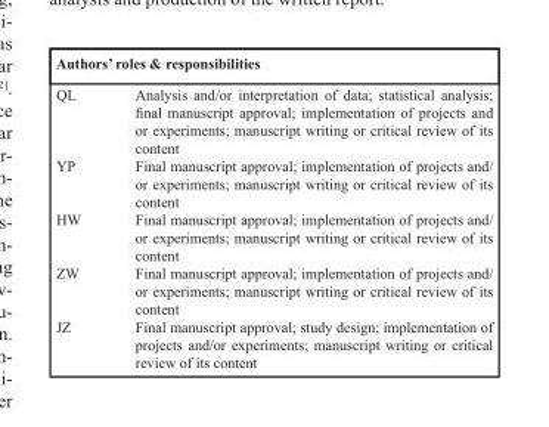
<table><thead><tr><td colspan="2">Authors’ roles &amp; responsibilities</td></tr><tr><td>QL</td><td>Analysis and/or interpretation of data; statistical analysis; final manuscript approval; implementation of projects and or experiments; manuscript writing or critical review of its content</td></tr></thead><tbody><tr><td>YP</td><td>Final manuscript approval; implementation of projects and/ or experiments; manuscript writing or critical review of its content</td></tr><tr><td>HW</td><td>Final manuscript approval; implementation of projects and/ or experiments; manuscript writing or critical review of its content</td></tr><tr><td>ZW</td><td>Final manuscript approval; implementation of projects and/ or experiments; manuscript writing or critical review of its content</td></tr><tr><td>JZ</td><td>Final manuscript approval; study design; implementation of projects and/or experiments; manuscript writing or critical review of its content</td></tr></tbody></table>